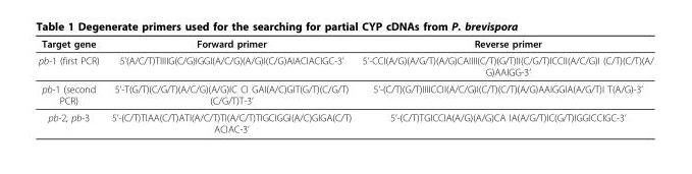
<table><thead><tr><td>Target gene</td><td>Forward primer</td><td>Reverse primer</td></tr></thead><tbody><tr><td>pb-1 (first PCR)</td><td>5’(A/C/T)TIIIIG(C/G)IGGI(A/C/G)(A/G)I(C/G)AIACIACIGC-3’</td><td>5’-CCI(A/G)(A/G/T)(A/G)CAIIII(C/T)(G/T)II(C/G/T)ICCII(A/C/G)I (C/T)(C/T)(A/ G)AAIGG-3’</td></tr><tr><td>pb-1 (second PCR)</td><td>5’-T(G/T)(C/G/T)(A/C/G)(A/G)IC CI GAI(A/C)GIT(G/T)(C/G/T) (C/G/T)T-3’</td><td>5’-(C/T)(G/T)IIIICCII(A/C/G)I(C/T)(C/T)(A/G)AAIGGIA(A/G/T)I T(A/G)-3’</td></tr><tr><td>pb-2, pb-3</td><td>5’-(C/T)TIAA(C/T)ATI(A/C/T)TI(A/C/T)TIGCIGGI(A/C)GIGA(C/T) ACIAC-3’</td><td>5’-(C/T)TGICCIA(A/G)(A/G)CA IA(A/G/T)IC(G/T)IGGICCIGC-3’</td></tr></tbody></table>